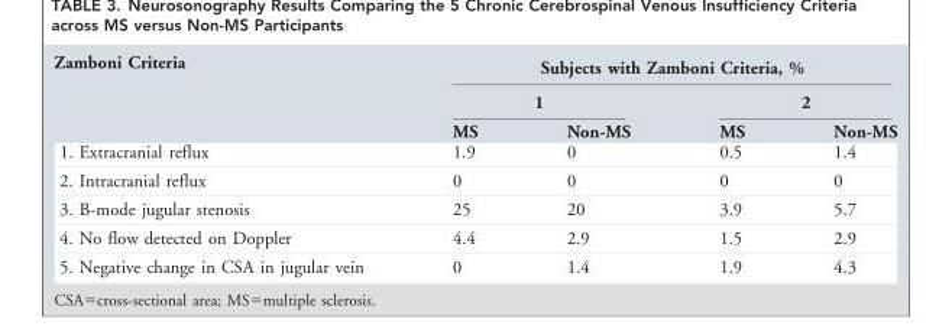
<table><thead><tr><td rowspan="3">Zamboni Criteria</td><td colspan="4">Subjects with Zamboni Criteria, %</td></tr><tr><td colspan="2">1</td><td colspan="2">2</td></tr><tr><td>MS</td><td>Non-MS</td><td>MS</td><td>Non-MS</td></tr></thead><tbody><tr><td>1. Extracranial reflux</td><td>1.9</td><td>0</td><td>0.5</td><td>1.4</td></tr><tr><td>2. Intracranial reflux</td><td>0</td><td>0</td><td>0</td><td>0</td></tr><tr><td>3. B-mode jugular stenosis</td><td>25</td><td>20</td><td>3.9</td><td>5.7</td></tr><tr><td>4. No flow detected on Doppler</td><td>4.4</td><td>2.9</td><td>1.5</td><td>2.9</td></tr><tr><td>5. Negative change in CSA in jugular vein</td><td>0</td><td>1.4</td><td>1.9</td><td>4.3</td></tr></tbody></table>